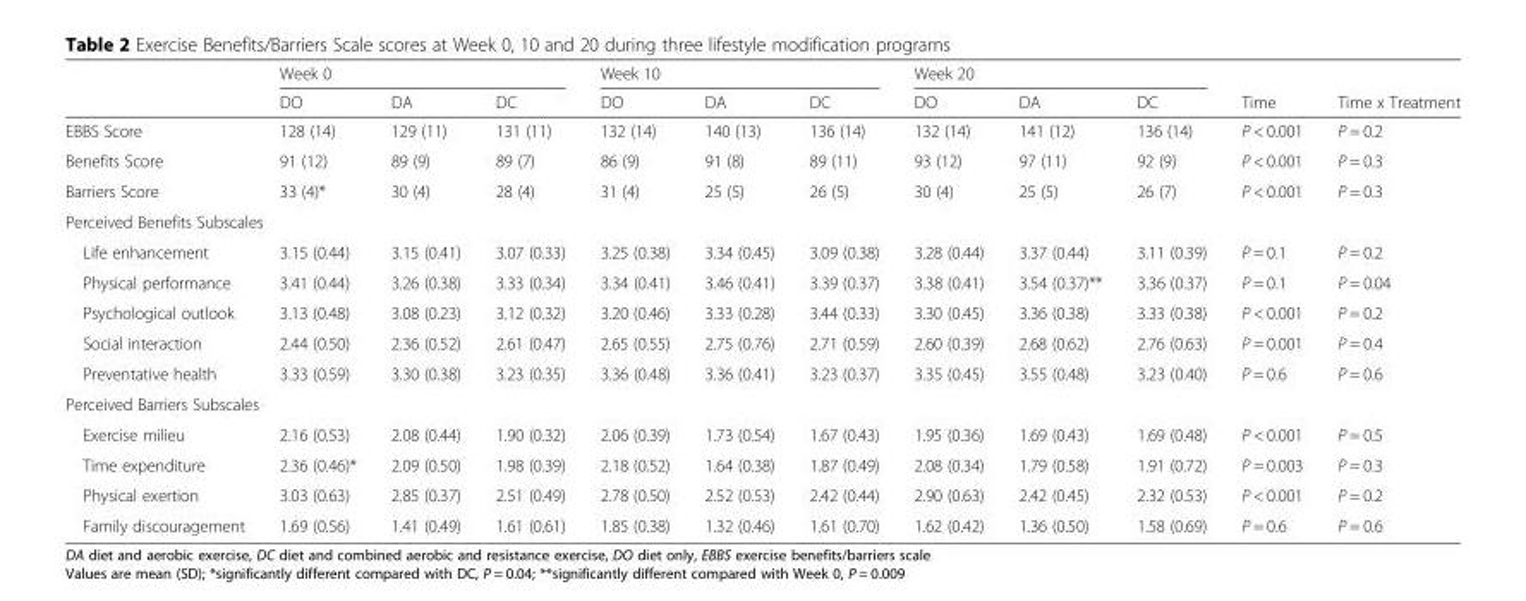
<table><thead><tr><td rowspan="2"></td><td colspan="3">Week 0</td><td colspan="3">Week 10</td><td colspan="3">Week 20</td><td rowspan="2">Time</td><td rowspan="2">Time x Treatment</td></tr><tr><td>DO</td><td>DA</td><td>DC</td><td>DO</td><td>DA</td><td>DC</td><td>DO</td><td>DA</td><td>DC</td></tr></thead><tbody><tr><td>EBBS Score</td><td>128 (14)</td><td>129 (11)</td><td>131 (11)</td><td>132 (14)</td><td>140 (13)</td><td>136 (14)</td><td>132 (14)</td><td>141 (12)</td><td>136 (14)</td><td>P &lt; 0.001</td><td>P = 0.2</td></tr><tr><td>Benefits Score</td><td>91 (12)</td><td>89 (9)</td><td>89 (7)</td><td>86 (9)</td><td>91 (8)</td><td>89 (11)</td><td>93 (12)</td><td>97 (11)</td><td>92 (9)</td><td>P &lt; 0.001</td><td>P = 0.3</td></tr><tr><td>Barriers Score</td><td>33 (4)*</td><td>30 (4)</td><td>28 (4)</td><td>31 (4)</td><td>25 (5)</td><td>26 (5)</td><td>30 (4)</td><td>25 (5)</td><td>26 (7)</td><td>P &lt; 0.001</td><td>P = 0.3</td></tr><tr><td colspan="12">Perceived Benefits Subscales</td></tr><tr><td>Life enhancement</td><td>3.15 (0.44)</td><td>3.15 (0.41)</td><td>3.07 (0.33)</td><td>3.25 (0.38)</td><td>3.34 (0.45)</td><td>3.09 (0.38)</td><td>3.28 (0.44)</td><td>3.37 (0.44)</td><td>3.11 (0.39)</td><td>P = 0.1</td><td>P = 0.2</td></tr><tr><td>Physical performance</td><td>3.41 (0.44)</td><td>3.26 (0.38)</td><td>3.33 (0.34)</td><td>3.34 (0.41)</td><td>3.46 (0.41)</td><td>3.39 (0.37)</td><td>3.38 (0.41)</td><td>3.54 (0.37)**</td><td>3.36 (0.37)</td><td>P = 0.1</td><td>P = 0.04</td></tr><tr><td>Psychological outlook</td><td>3.13 (0.48)</td><td>3.08 (0.23)</td><td>3.12 (0.32)</td><td>3.20 (0.46)</td><td>3.33 (0.28)</td><td>3.44 (0.33)</td><td>3.30 (0.45)</td><td>3.36 (0.38)</td><td>3.33 (0.38)</td><td>P &lt; 0.001</td><td>P = 0.2</td></tr><tr><td>Social interaction</td><td>2.44 (0.50)</td><td>2.36 (0.52)</td><td>2.61 (0.47)</td><td>2.65 (0.55)</td><td>2.75 (0.76)</td><td>2.71 (0.59)</td><td>2.60 (0.39)</td><td>2.68 (0.62)</td><td>2.76 (0.63)</td><td>P = 0.001</td><td>P = 0.4</td></tr><tr><td>Preventative health</td><td>3.33 (0.59)</td><td>3.30 (0.38)</td><td>3.23 (0.35)</td><td>3.36 (0.48)</td><td>3.36 (0.41)</td><td>3.23 (0.37)</td><td>3.35 (0.45)</td><td>3.55 (0.48)</td><td>3.23 (0.40)</td><td>P = 0.6</td><td>P = 0.6</td></tr><tr><td colspan="12">Perceived Barriers Subscales</td></tr><tr><td>Exercise milieu</td><td>2.16 (0.53)</td><td>2.08 (0.44)</td><td>1.90 (0.32)</td><td>2.06 (0.39)</td><td>1.73 (0.54)</td><td>1.67 (0.43)</td><td>1.95 (0.36)</td><td>1.69 (0.43)</td><td>1.69 (0.48)</td><td>P &lt; 0.001</td><td>P = 0.5</td></tr><tr><td>Time expenditure</td><td>2.36 (0.46)*</td><td>2.09 (0.50)</td><td>1.98 (0.39)</td><td>2.18 (0.52)</td><td>1.64 (0.38)</td><td>1.87 (0.49)</td><td>2.08 (0.34)</td><td>1.79 (0.58)</td><td>1.91 (0.72)</td><td>P = 0.003</td><td>P = 0.3</td></tr><tr><td>Physical exertion</td><td>3.03 (0.63)</td><td>2.85 (0.37)</td><td>2.51 (0.49)</td><td>2.78 (0.50)</td><td>2.52 (0.53)</td><td>2.42 (0.44)</td><td>2.90 (0.63)</td><td>2.42 (0.45)</td><td>2.32 (0.53)</td><td>P &lt; 0.001</td><td>P = 0.2</td></tr><tr><td>Family discouragement</td><td>1.69 (0.56)</td><td>1.41 (0.49)</td><td>1.61 (0.61)</td><td>1.85 (0.38)</td><td>1.32 (0.46)</td><td>1.61 (0.70)</td><td>1.62 (0.42)</td><td>1.36 (0.50)</td><td>1.58 (0.69)</td><td>P = 0.6</td><td>P = 0.6</td></tr></tbody></table>